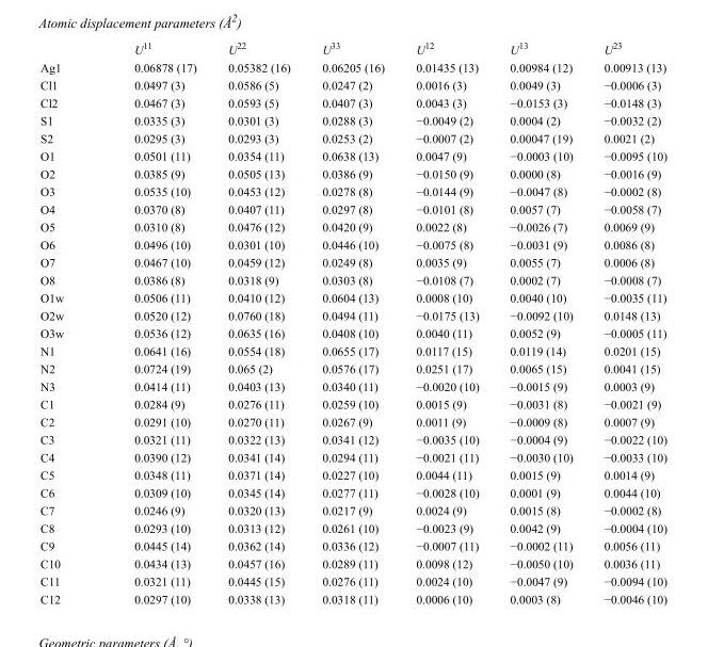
<table><thead><tr><td></td><td>U<sup>11</sup></td><td>U<sup>22</sup></td><td>U<sup>33</sup></td><td>U<sup>12</sup></td><td>U<sup>13</sup></td><td>U<sup>23</sup></td></tr></thead><tbody><tr><td>Ag1</td><td>0.06878 (17)</td><td>0.05382 (16)</td><td>0.06205 (16)</td><td>0.01435 (13)</td><td>0.00984 (12)</td><td>0.00913 (13)</td></tr><tr><td>Cl1</td><td>0.0497 (3)</td><td>0.0586 (5)</td><td>0.0247 (2)</td><td>0.0016 (3)</td><td>0.0049 (3)</td><td>−0.0006 (3)</td></tr><tr><td>Cl2</td><td>0.0467 (3)</td><td>0.0593 (5)</td><td>0.0407 (3)</td><td>0.0043 (3)</td><td>−0.0153 (3)</td><td>−0.0148 (3)</td></tr><tr><td>S1</td><td>0.0335 (3)</td><td>0.0301 (3)</td><td>0.0288 (3)</td><td>−0.0049 (2)</td><td>0.0004 (2)</td><td>−0.0032 (2)</td></tr><tr><td>S2</td><td>0.0295 (3)</td><td>0.0293 (3)</td><td>0.0253 (2)</td><td>−0.0007 (2)</td><td>0.00047 (19)</td><td>0.0021 (2)</td></tr><tr><td>O1</td><td>0.0501 (11)</td><td>0.0354 (11)</td><td>0.0638 (13)</td><td>0.0047 (9)</td><td>−0.0003 (10)</td><td>−0.0095 (10)</td></tr><tr><td>O2</td><td>0.0385 (9)</td><td>0.0505 (13)</td><td>0.0386 (9)</td><td>−0.0150 (9)</td><td>0.0000 (8)</td><td>−0.0016 (9)</td></tr><tr><td>O3</td><td>0.0535 (10)</td><td>0.0453 (12)</td><td>0.0278 (8)</td><td>−0.0144 (9)</td><td>−0.0047 (8)</td><td>−0.0002 (8)</td></tr><tr><td>O4</td><td>0.0370 (8)</td><td>0.0407 (11)</td><td>0.0297 (8)</td><td>−0.0101 (8)</td><td>0.0057 (7)</td><td>−0.0058 (7)</td></tr><tr><td>O5</td><td>0.0310 (8)</td><td>0.0476 (12)</td><td>0.0420 (9)</td><td>0.0022 (8)</td><td>−0.0026 (7)</td><td>0.0069 (9)</td></tr><tr><td>O6</td><td>0.0496 (10)</td><td>0.0301 (10)</td><td>0.0446 (10)</td><td>−0.0075 (8)</td><td>−0.0031 (9)</td><td>0.0086 (8)</td></tr><tr><td>O7</td><td>0.0467 (10)</td><td>0.0459 (12)</td><td>0.0249 (8)</td><td>0.0035 (9)</td><td>0.0055 (7)</td><td>0.0006 (8)</td></tr><tr><td>O8</td><td>0.0386 (8)</td><td>0.0318 (9)</td><td>0.0303 (8)</td><td>−0.0108 (7)</td><td>0.0002 (7)</td><td>−0.0008 (7)</td></tr><tr><td>O1w</td><td>0.0506 (11)</td><td>0.0410 (12)</td><td>0.0604 (13)</td><td>0.0008 (10)</td><td>0.0040 (10)</td><td>−0.0035 (11)</td></tr><tr><td>O2w</td><td>0.0520 (12)</td><td>0.0760 (18)</td><td>0.0494 (11)</td><td>−0.0175 (13)</td><td>−0.0092 (10)</td><td>0.0148 (13)</td></tr><tr><td>O3w</td><td>0.0536 (12)</td><td>0.0635 (16)</td><td>0.0408 (10)</td><td>0.0040 (11)</td><td>0.0052 (9)</td><td>−0.0005 (11)</td></tr><tr><td>N1</td><td>0.0641 (16)</td><td>0.0554 (18)</td><td>0.0655 (17)</td><td>0.0117 (15)</td><td>0.0119 (14)</td><td>0.0201 (15)</td></tr><tr><td>N2</td><td>0.0724 (19)</td><td>0.065 (2)</td><td>0.0576 (17)</td><td>0.0251 (17)</td><td>0.0065 (15)</td><td>0.0041 (15)</td></tr><tr><td>N3</td><td>0.0414 (11)</td><td>0.0403 (13)</td><td>0.0340 (11)</td><td>−0.0020 (10)</td><td>−0.0015 (9)</td><td>0.0003 (9)</td></tr><tr><td>C1</td><td>0.0284 (9)</td><td>0.0276 (11)</td><td>0.0259 (10)</td><td>0.0015 (9)</td><td>−0.0031 (8)</td><td>−0.0021 (9)</td></tr><tr><td>C2</td><td>0.0291 (10)</td><td>0.0270 (11)</td><td>0.0267 (9)</td><td>0.0011 (9)</td><td>−0.0009 (8)</td><td>0.0007 (9)</td></tr><tr><td>C3</td><td>0.0321 (11)</td><td>0.0322 (13)</td><td>0.0341 (12)</td><td>−0.0035 (10)</td><td>−0.0004 (9)</td><td>−0.0022 (10)</td></tr><tr><td>C4</td><td>0.0390 (12)</td><td>0.0341 (14)</td><td>0.0294 (11)</td><td>−0.0021 (11)</td><td>−0.0030 (10)</td><td>−0.0033 (10)</td></tr><tr><td>C5</td><td>0.0348 (11)</td><td>0.0371 (14)</td><td>0.0227 (10)</td><td>0.0044 (11)</td><td>0.0015 (9)</td><td>0.0014 (9)</td></tr><tr><td>C6</td><td>0.0309 (10)</td><td>0.0345 (14)</td><td>0.0277 (11)</td><td>−0.0028 (10)</td><td>0.0001 (9)</td><td>0.0044 (10)</td></tr><tr><td>C7</td><td>0.0246 (9)</td><td>0.0320 (13)</td><td>0.0217 (9)</td><td>0.0024 (9)</td><td>0.0015 (8)</td><td>−0.0002 (8)</td></tr><tr><td>C8</td><td>0.0293 (10)</td><td>0.0313 (12)</td><td>0.0261 (10)</td><td>−0.0023 (9)</td><td>0.0042 (9)</td><td>−0.0004 (10)</td></tr><tr><td>C9</td><td>0.0445 (14)</td><td>0.0362 (14)</td><td>0.0336 (12)</td><td>−0.0007 (11)</td><td>−0.0002 (11)</td><td>0.0056 (11)</td></tr><tr><td>C10</td><td>0.0434 (13)</td><td>0.0457 (16)</td><td>0.0289 (11)</td><td>0.0098 (12)</td><td>−0.0050 (10)</td><td>0.0036 (11)</td></tr><tr><td>C11</td><td>0.0321 (11)</td><td>0.0445 (15)</td><td>0.0276 (11)</td><td>0.0024 (10)</td><td>−0.0047 (9)</td><td>−0.0094 (10)</td></tr><tr><td>C12</td><td>0.0297 (10)</td><td>0.0338 (13)</td><td>0.0318 (11)</td><td>0.0006 (10)</td><td>0.0003 (8)</td><td>−0.0046 (10)</td></tr></tbody></table>